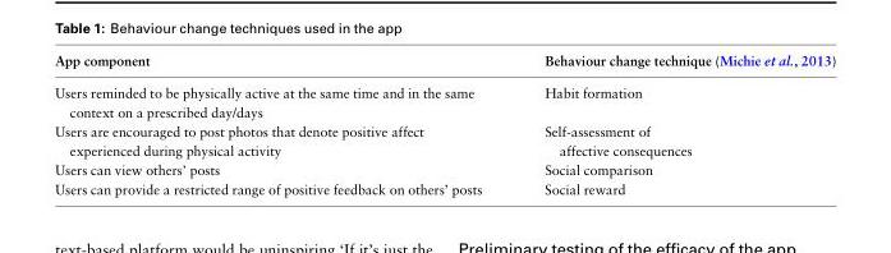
<table><thead><tr><td>App component</td><td>Behaviour change technique (Michie et al., 2013)</td></tr></thead><tbody><tr><td>Users reminded to be physically active at the same time and in the same context on a prescribed day/days</td><td>Habit formation</td></tr><tr><td>Users are encouraged to post photos that denote positive affect experienced during physical activity</td><td>Self-assessment of affective consequences</td></tr><tr><td>Users can view others’ posts</td><td>Social comparison</td></tr><tr><td>Users can provide a restricted range of positive feedback on others’ posts</td><td>Social reward</td></tr></tbody></table>